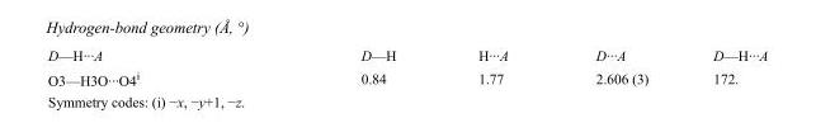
<table><tbody><tr><td>D—H···A</td><td>D—H</td><td>H···A</td><td>D···A</td><td>D—H···A</td></tr><tr><td>O3—H3O···O4<sup>i</sup></td><td>0.84</td><td>1.77</td><td>2.606 (3)</td><td>172.</td></tr></tbody></table>